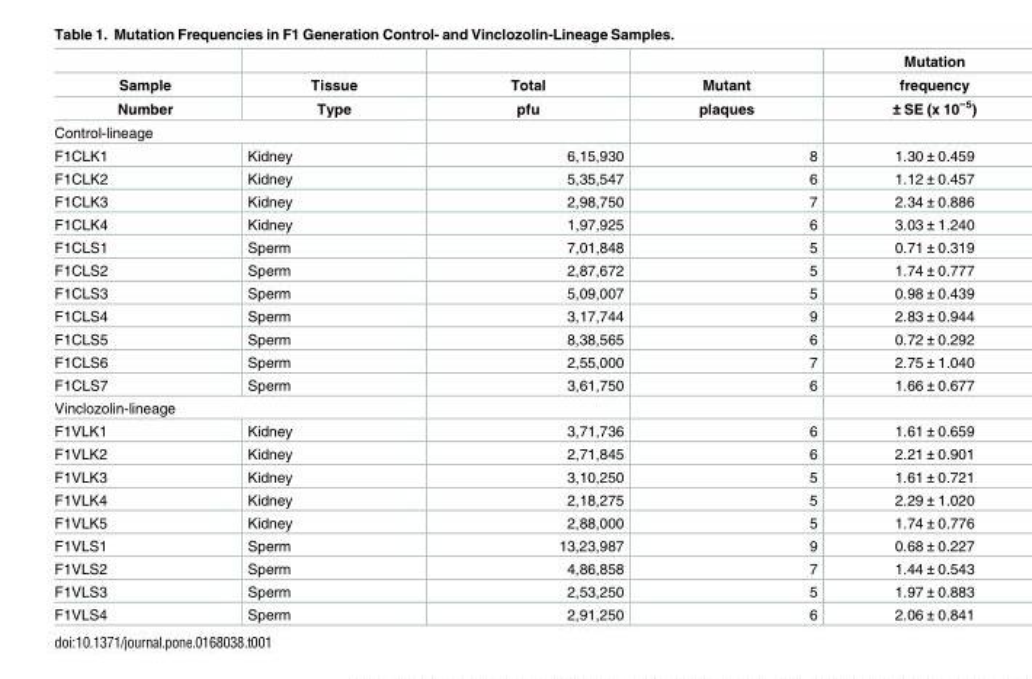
<table><thead><tr><td rowspan="3">Sample Number</td><td rowspan="3">Tissue Type</td><td rowspan="3">Total pfu</td><td rowspan="3">Mutant plaques</td><td rowspan="3">Mutation frequency ± SE (x 10<sup>−5</sup>)</td></tr><tr></tr><tr></tr></thead><tbody><tr><td colspan="5">Control-lineage</td></tr><tr><td>F1CLK1</td><td>Kidney</td><td>6,15,930</td><td>8</td><td>1.30 ± 0.459</td></tr><tr><td>F1CLK2</td><td>Kidney</td><td>5,35,547</td><td>6</td><td>1.12 ± 0.457</td></tr><tr><td>F1CLK3</td><td>Kidney</td><td>2,98,750</td><td>7</td><td>2.34 ± 0.886</td></tr><tr><td>F1CLK4</td><td>Kidney</td><td>1,97,925</td><td>6</td><td>3.03 ± 1.240</td></tr><tr><td>F1CLS1</td><td>Sperm</td><td>7,01,848</td><td>5</td><td>0.71 ± 0.319</td></tr><tr><td>F1CLS2</td><td>Sperm</td><td>2,87,672</td><td>5</td><td>1.74 ± 0.777</td></tr><tr><td>F1CLS3</td><td>Sperm</td><td>5,09,007</td><td>5</td><td>0.98 ± 0.439</td></tr><tr><td>F1CLS4</td><td>Sperm</td><td>3,17,744</td><td>9</td><td>2.83 ± 0.944</td></tr><tr><td>F1CLS5</td><td>Sperm</td><td>8,38,565</td><td>6</td><td>0.72 ± 0.292</td></tr><tr><td>F1CLS6</td><td>Sperm</td><td>2,55,000</td><td>7</td><td>2.75 ± 1.040</td></tr><tr><td>F1CLS7</td><td>Sperm</td><td>3,61,750</td><td>6</td><td>1.66 ± 0.677</td></tr><tr><td colspan="5">Vinclozolin-lineage</td></tr><tr><td>F1VLK1</td><td>Kidney</td><td>3,71,736</td><td>6</td><td>1.61 ± 0.659</td></tr><tr><td>F1VLK2</td><td>Kidney</td><td>2,71,845</td><td>6</td><td>2.21 ± 0.901</td></tr><tr><td>F1VLK3</td><td>Kidney</td><td>3,10,250</td><td>5</td><td>1.61 ± 0.721</td></tr><tr><td>F1VLK4</td><td>Kidney</td><td>2,18,275</td><td>5</td><td>2.29 ± 1.020</td></tr><tr><td>F1VLK5</td><td>Kidney</td><td>2,88,000</td><td>5</td><td>1.74 ± 0.776</td></tr><tr><td>F1VLS1</td><td>Sperm</td><td>13,23,987</td><td>9</td><td>0.68 ± 0.227</td></tr><tr><td>F1VLS2</td><td>Sperm</td><td>4,86,858</td><td>7</td><td>1.44 ± 0.543</td></tr><tr><td>F1VLS3</td><td>Sperm</td><td>2,53,250</td><td>5</td><td>1.97 ± 0.883</td></tr><tr><td>F1VLS4</td><td>Sperm</td><td>2,91,250</td><td>6</td><td>2.06 ± 0.841</td></tr></tbody></table>